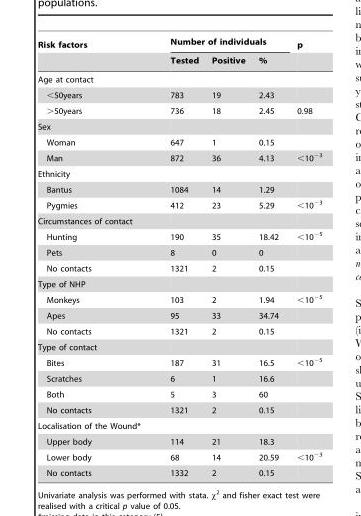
<table><thead><tr><td rowspan="2">Risk factors</td><td colspan="3">Number of individuals</td><td rowspan="2">p</td></tr><tr><td>Tested</td><td>Positive</td><td>%</td></tr></thead><tbody><tr><td colspan="5">Age at contact</td></tr><tr><td>&lt;50years</td><td>783</td><td>19</td><td>2.43</td><td></td></tr><tr><td>&gt;50years</td><td>736</td><td>18</td><td>2.45</td><td>0.98</td></tr><tr><td colspan="5">Sex</td></tr><tr><td>Woman</td><td>647</td><td>1</td><td>0.15</td><td></td></tr><tr><td>Man</td><td>872</td><td>36</td><td>4.13</td><td>&lt;10<sup>−3</sup></td></tr><tr><td colspan="5">Ethnicity</td></tr><tr><td>Bantus</td><td>1084</td><td>14</td><td>1.29</td><td></td></tr><tr><td>Pygmies</td><td>412</td><td>23</td><td>5.29</td><td>&lt;10<sup>−3</sup></td></tr><tr><td colspan="5">Circumstances of contact</td></tr><tr><td>Hunting</td><td>190</td><td>35</td><td>18.42</td><td>&lt;10<sup>−5</sup></td></tr><tr><td>Pets</td><td>8</td><td>0</td><td>0</td><td></td></tr><tr><td>No contacts</td><td>1321</td><td>2</td><td>0.15</td><td></td></tr><tr><td colspan="5">Type of NHP</td></tr><tr><td>Monkeys</td><td>103</td><td>2</td><td>1.94</td><td>&lt;10<sup>−5</sup></td></tr><tr><td>Apes</td><td>95</td><td>33</td><td>34.74</td><td></td></tr><tr><td>No contacts</td><td>1321</td><td>2</td><td>0.15</td><td></td></tr><tr><td colspan="5">Type of contact</td></tr><tr><td>Bites</td><td>187</td><td>31</td><td>16.5</td><td>&lt;10<sup>−5</sup></td></tr><tr><td>Scratches</td><td>6</td><td>1</td><td>16.6</td><td></td></tr><tr><td>Both</td><td>5</td><td>3</td><td>60</td><td></td></tr><tr><td>No contacts</td><td>1321</td><td>2</td><td>0.15</td><td></td></tr><tr><td colspan="5">Localisation of the Wound*</td></tr><tr><td>Upper body</td><td>114</td><td>21</td><td>18.3</td><td></td></tr><tr><td>Lower body</td><td>68</td><td>14</td><td>20.59</td><td>&lt;10<sup>−3</sup></td></tr><tr><td>No contacts</td><td>1332</td><td>2</td><td>0.15</td><td></td></tr></tbody></table>